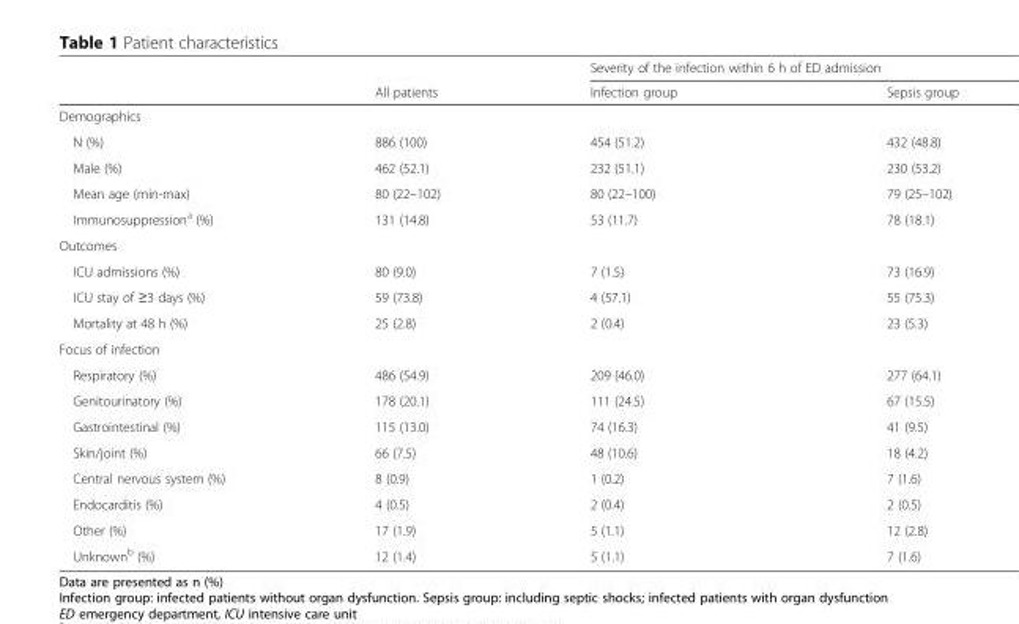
<table><thead><tr><td rowspan="2"></td><td rowspan="2">All patients</td><td colspan="2">Severity of the infection within 6 h of ED admission</td></tr><tr><td>Infection group</td><td>Sepsis group</td></tr></thead><tbody><tr><td colspan="4">Demographics</td></tr><tr><td>N (%)</td><td>886 (100)</td><td>454 (51.2)</td><td>432 (48.8)</td></tr><tr><td>Male (%)</td><td>462 (52.1)</td><td>232 (51.1)</td><td>230 (53.2)</td></tr><tr><td>Mean age (min-max)</td><td>80 (22–102)</td><td>80 (22–100)</td><td>79 (25–102)</td></tr><tr><td>Immunosuppression<sup>a</sup> (%)</td><td>131 (14.8)</td><td>53 (11.7)</td><td>78 (18.1)</td></tr><tr><td colspan="4">Outcomes</td></tr><tr><td>ICU admissions (%)</td><td>80 (9.0)</td><td>7 (1.5)</td><td>73 (16.9)</td></tr><tr><td>ICU stay of ≥3 days (%)</td><td>59 (73.8)</td><td>4 (57.1)</td><td>55 (75.3)</td></tr><tr><td>Mortality at 48 h (%)</td><td>25 (2.8)</td><td>2 (0.4)</td><td>23 (5.3)</td></tr><tr><td colspan="4">Focus of infection</td></tr><tr><td>Respiratory (%)</td><td>486 (54.9)</td><td>209 (46.0)</td><td>277 (64.1)</td></tr><tr><td>Genitourinatory (%)</td><td>178 (20.1)</td><td>111 (24.5)</td><td>67 (15.5)</td></tr><tr><td>Gastrointestinal (%)</td><td>115 (13.0)</td><td>74 (16.3)</td><td>41 (9.5)</td></tr><tr><td>Skin/joint (%)</td><td>66 (7.5)</td><td>48 (10.6)</td><td>18 (4.2)</td></tr><tr><td>Central nervous system (%)</td><td>8 (0.9)</td><td>1 (0.2)</td><td>7 (1.6)</td></tr><tr><td>Endocarditis (%)</td><td>4 (0.5)</td><td>2 (0.4)</td><td>2 (0.5)</td></tr><tr><td>Other (%)</td><td>17 (1.9)</td><td>5 (1.1)</td><td>12 (2.8)</td></tr><tr><td>Unknown<sup>b</sup> (%)</td><td>12 (1.4)</td><td>5 (1.1)</td><td>7 (1.6)</td></tr></tbody></table>